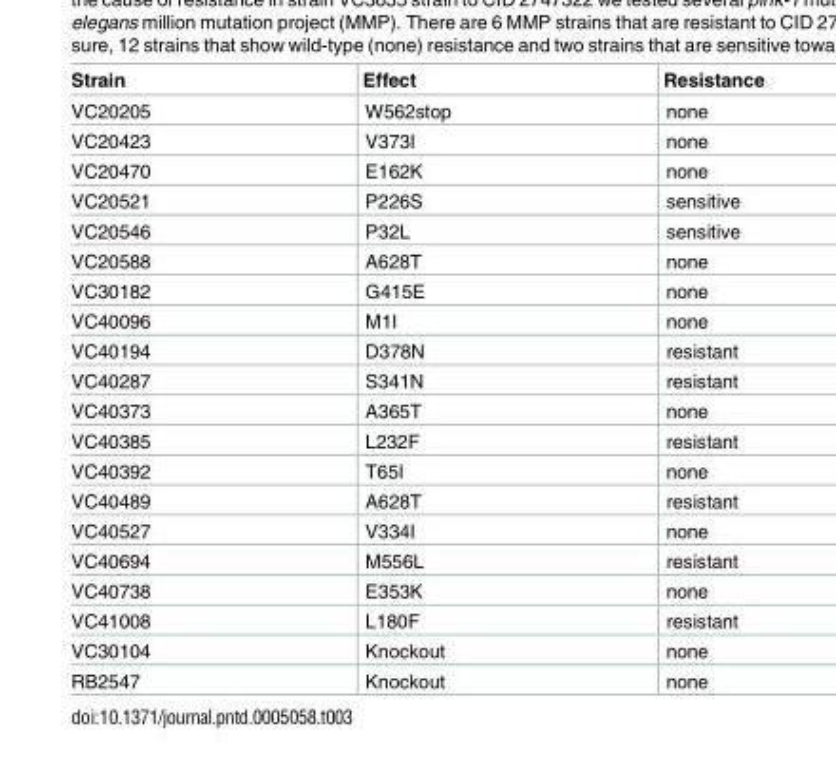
<table><thead><tr><td>Strain</td><td>Effect</td><td>Resistance</td></tr></thead><tbody><tr><td>VC20205</td><td>W562stop</td><td>none</td></tr><tr><td>VC20423</td><td>V373I</td><td>none</td></tr><tr><td>VC20470</td><td>E162K</td><td>none</td></tr><tr><td>VC20521</td><td>P226S</td><td>sensitive</td></tr><tr><td>VC20546</td><td>P32L</td><td>sensitive</td></tr><tr><td>VC20588</td><td>A628T</td><td>none</td></tr><tr><td>VC30182</td><td>G415E</td><td>none</td></tr><tr><td>VC40096</td><td>M1I</td><td>none</td></tr><tr><td>VC40194</td><td>D378N</td><td>resistant</td></tr><tr><td>VC40287</td><td>S341N</td><td>resistant</td></tr><tr><td>VC40373</td><td>A365T</td><td>none</td></tr><tr><td>VC40385</td><td>L232F</td><td>resistant</td></tr><tr><td>VC40392</td><td>T65I</td><td>none</td></tr><tr><td>VC40489</td><td>A628T</td><td>resistant</td></tr><tr><td>VC40527</td><td>V334I</td><td>none</td></tr><tr><td>VC40694</td><td>M556L</td><td>resistant</td></tr><tr><td>VC40738</td><td>E353K</td><td>none</td></tr><tr><td>VC41008</td><td>L180F</td><td>resistant</td></tr><tr><td>VC30104</td><td>Knockout</td><td>none</td></tr><tr><td>RB2547</td><td>Knockout</td><td>none</td></tr></tbody></table>